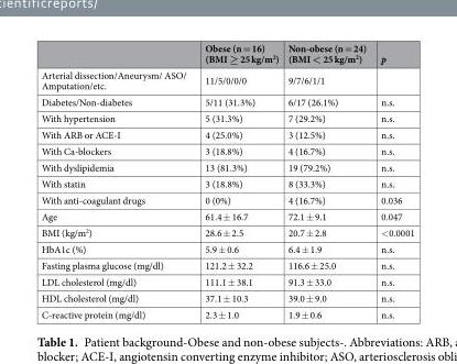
<table><thead><tr><td></td><td>Obese (n = 16) (BMI ≥ 25 kg/m<sup>2</sup>)</td><td>Non-obese (n = 24) (BMI &lt; 25 kg/m<sup>2</sup>)</td><td>p</td></tr></thead><tbody><tr><td>Arterial dissection/Aneurysm/ ASO/ Amputation/etc.</td><td>11/5/0/0/0</td><td>9/7/6/1/1</td><td></td></tr><tr><td>Diabetes/Non-diabetes</td><td>5/11 (31.3%)</td><td>6/17 (26.1%)</td><td>n.s.</td></tr><tr><td>With hypertension</td><td>5 (31.3%)</td><td>7 (29.2%)</td><td>n.s.</td></tr><tr><td>With ARB or ACE-I</td><td>4 (25.0%)</td><td>3 (12.5%)</td><td>n.s.</td></tr><tr><td>With Ca-blockers</td><td>3 (18.8%)</td><td>4 (16.7%)</td><td>n.s.</td></tr><tr><td>With dyslipidemia</td><td>13 (81.3%)</td><td>19 (79.2%)</td><td>n.s.</td></tr><tr><td>With statin</td><td>3 (18.8%)</td><td>8 (33.3%)</td><td>n.s.</td></tr><tr><td>With anti-coagulant drugs</td><td>0 (0%)</td><td>4 (16.7%)</td><td>0.036</td></tr><tr><td>Age</td><td>61.4 ± 16.7</td><td>72.1 ± 9.1</td><td>0.047</td></tr><tr><td>BMI (kg/m<sup>2</sup>)</td><td>28.6 ± 2.5</td><td>20.7 ± 2.8</td><td>&lt;0.0001</td></tr><tr><td>HbA1c (%)</td><td>5.9 ± 0.6</td><td>6.4 ± 1.9</td><td>n.s.</td></tr><tr><td>Fasting plasma glucose (mg/dl)</td><td>121.2 ± 32.2</td><td>116.6 ± 25.0</td><td>n.s.</td></tr><tr><td>LDL cholesterol (mg/dl)</td><td>111.1 ± 38.1</td><td>91.3 ± 33.0</td><td>n.s.</td></tr><tr><td>HDL cholesterol (mg/dl)</td><td>37.1 ± 10.3</td><td>39.0 ± 9.0</td><td>n.s.</td></tr><tr><td>C-reactive protein (mg/dl)</td><td>2.3 ± 1.0</td><td>1.9 ± 0.6</td><td>n.s.</td></tr></tbody></table>